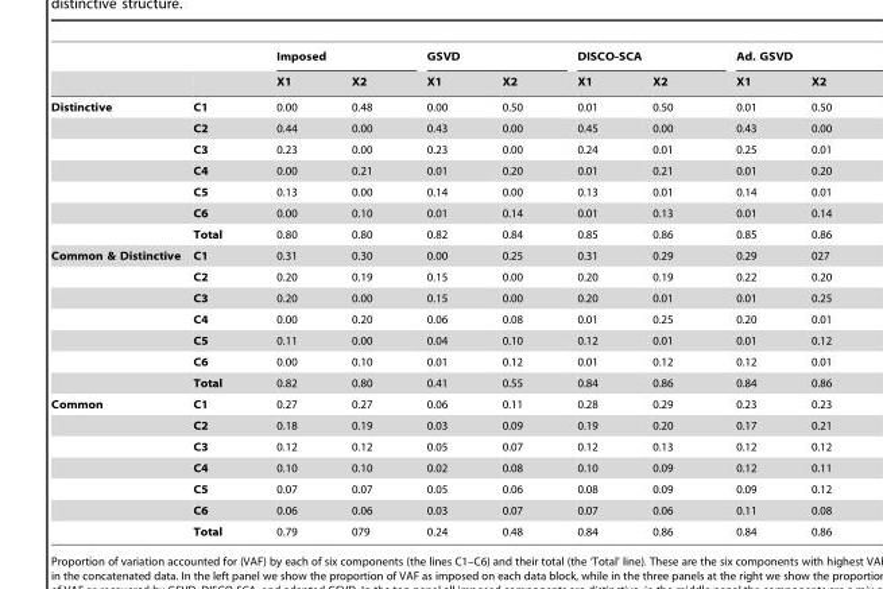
<table><thead><tr><td rowspan="2"></td><td rowspan="2"></td><td colspan="2">Imposed</td><td colspan="2">GSVD</td><td colspan="2">DISCO-SCA</td><td colspan="2">Ad. GSVD</td></tr><tr><td>X1</td><td>X2</td><td>X1</td><td>X2</td><td>X1</td><td>X2</td><td>X1</td><td>X2</td></tr></thead><tbody><tr><td rowspan="7">Distinctive</td><td>C1</td><td>0.00</td><td>0.48</td><td>0.00</td><td>0.50</td><td>0.01</td><td>0.50</td><td>0.01</td><td>0.50</td></tr><tr><td>C2</td><td>0.44</td><td>0.00</td><td>0.43</td><td>0.00</td><td>0.45</td><td>0.00</td><td>0.43</td><td>0.00</td></tr><tr><td>C3</td><td>0.23</td><td>0.00</td><td>0.23</td><td>0.00</td><td>0.24</td><td>0.01</td><td>0.25</td><td>0.01</td></tr><tr><td>C4</td><td>0.00</td><td>0.21</td><td>0.01</td><td>0.20</td><td>0.01</td><td>0.21</td><td>0.01</td><td>0.20</td></tr><tr><td>C5</td><td>0.13</td><td>0.00</td><td>0.14</td><td>0.00</td><td>0.13</td><td>0.01</td><td>0.14</td><td>0.01</td></tr><tr><td>C6</td><td>0.00</td><td>0.10</td><td>0.01</td><td>0.14</td><td>0.01</td><td>0.13</td><td>0.01</td><td>0.14</td></tr><tr><td>Total</td><td>0.80</td><td>0.80</td><td>0.82</td><td>0.84</td><td>0.85</td><td>0.86</td><td>0.85</td><td>0.86</td></tr><tr><td rowspan="7">Common &amp; Distinctive</td><td>C1</td><td>0.31</td><td>0.30</td><td>0.00</td><td>0.25</td><td>0.31</td><td>0.29</td><td>0.29</td><td>027</td></tr><tr><td>C2</td><td>0.20</td><td>0.19</td><td>0.15</td><td>0.00</td><td>0.20</td><td>0.19</td><td>0.22</td><td>0.20</td></tr><tr><td>C3</td><td>0.20</td><td>0.00</td><td>0.15</td><td>0.00</td><td>0.20</td><td>0.01</td><td>0.01</td><td>0.25</td></tr><tr><td>C4</td><td>0.00</td><td>0.20</td><td>0.06</td><td>0.08</td><td>0.01</td><td>0.25</td><td>0.20</td><td>0.01</td></tr><tr><td>C5</td><td>0.11</td><td>0.00</td><td>0.04</td><td>0.10</td><td>0.12</td><td>0.01</td><td>0.01</td><td>0.12</td></tr><tr><td>C6</td><td>0.00</td><td>0.10</td><td>0.01</td><td>0.12</td><td>0.01</td><td>0.12</td><td>0.12</td><td>0.01</td></tr><tr><td>Total</td><td>0.82</td><td>0.80</td><td>0.41</td><td>0.55</td><td>0.84</td><td>0.86</td><td>0.84</td><td>0.86</td></tr><tr><td rowspan="7">Common</td><td>C1</td><td>0.27</td><td>0.27</td><td>0.06</td><td>0.11</td><td>0.28</td><td>0.29</td><td>0.23</td><td>0.23</td></tr><tr><td>C2</td><td>0.18</td><td>0.19</td><td>0.03</td><td>0.09</td><td>0.19</td><td>0.20</td><td>0.17</td><td>0.21</td></tr><tr><td>C3</td><td>0.12</td><td>0.12</td><td>0.05</td><td>0.07</td><td>0.12</td><td>0.13</td><td>0.12</td><td>0.12</td></tr><tr><td>C4</td><td>0.10</td><td>0.10</td><td>0.02</td><td>0.08</td><td>0.10</td><td>0.09</td><td>0.12</td><td>0.11</td></tr><tr><td>C5</td><td>0.07</td><td>0.07</td><td>0.05</td><td>0.06</td><td>0.08</td><td>0.09</td><td>0.09</td><td>0.12</td></tr><tr><td>C6</td><td>0.06</td><td>0.06</td><td>0.03</td><td>0.07</td><td>0.07</td><td>0.06</td><td>0.11</td><td>0.08</td></tr><tr><td>Total</td><td>0.79</td><td>079</td><td>0.24</td><td>0.48</td><td>0.84</td><td>0.86</td><td>0.84</td><td>0.86</td></tr></tbody></table>